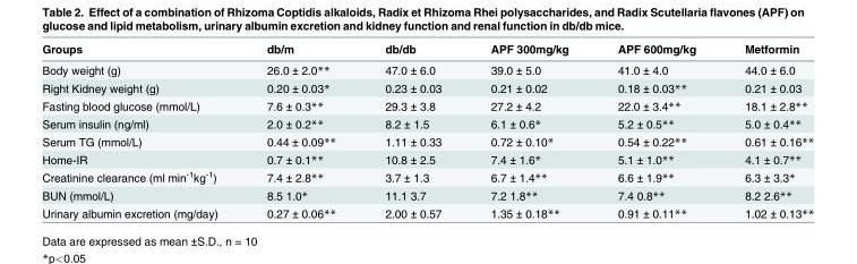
<table><thead><tr><td>Groups</td><td>db/m</td><td>db/db</td><td>APF 300mg/kg</td><td>APF 600mg/kg</td><td>Metformin</td></tr></thead><tbody><tr><td>Body weight (g)</td><td>26.0 ± 2.0**</td><td>47.0 ± 6.0</td><td>39.0 ± 5.0</td><td>41.0 ± 4.0</td><td>44.0 ± 6.0</td></tr><tr><td>Right Kidney weight (g)</td><td>0.20 ± 0.03*</td><td>0.23 ± 0.03</td><td>0.21 ± 0.02</td><td>0.18 ± 0.03**</td><td>0.21 ± 0.03</td></tr><tr><td>Fasting blood glucose (mmol/L)</td><td>7.6 ± 0.3**</td><td>29.3 ± 3.8</td><td>27.2 ± 4.2</td><td>22.0 ± 3.4**</td><td>18.1 ± 2.8**</td></tr><tr><td>Serum insulin (ng/ml)</td><td>2.0 ± 0.2**</td><td>8.2 ± 1.5</td><td>6.1 ± 0.6*</td><td>5.2 ± 0.5**</td><td>5.0 ± 0.4**</td></tr><tr><td>Serum TG (mmol/L)</td><td>0.44 ± 0.09**</td><td>1.11 ± 0.33</td><td>0.72 ± 0.10*</td><td>0.54 ± 0.22**</td><td>0.61 ± 0.16**</td></tr><tr><td>Home-IR</td><td>0.7 ± 0.1**</td><td>10.8 ± 2.5</td><td>7.4 ± 1.6*</td><td>5.1 ± 1.0**</td><td>4.1 ± 0.7**</td></tr><tr><td>Creatinine clearance (ml min<sup>-1</sup>kg<sup>-1</sup>)</td><td>7.4 ± 2.8**</td><td>3.7 ± 1.3</td><td>6.7 ± 1.4**</td><td>6.6 ± 1.9**</td><td>6.3 ± 3.3*</td></tr><tr><td>BUN (mmol/L)</td><td>8.5 1.0*</td><td>11.1 3.7</td><td>7.2 1.8**</td><td>7.4 0.8**</td><td>8.2 2.6**</td></tr><tr><td>Urinary albumin excretion (mg/day)</td><td>0.27 ± 0.06**</td><td>2.00 ± 0.57</td><td>1.35 ± 0.18**</td><td>0.91 ± 0.11**</td><td>1.02 ± 0.13**</td></tr></tbody></table>